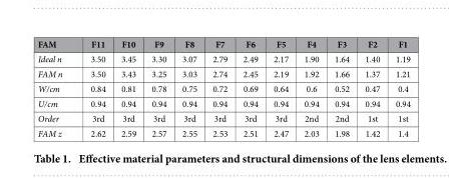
<table><thead><tr><td>FAM</td><td>F11</td><td>F10</td><td>F9</td><td>F8</td><td>F7</td><td>F6</td><td>F5</td><td>F4</td><td>F3</td><td>F2</td><td>F1</td></tr></thead><tbody><tr><td>Ideal n</td><td>3.50</td><td>3.45</td><td>3.30</td><td>3.07</td><td>2.79</td><td>2.49</td><td>2.17</td><td>1.90</td><td>1.64</td><td>1.40</td><td>1.19</td></tr><tr><td>FAM n</td><td>3.50</td><td>3.43</td><td>3.25</td><td>3.03</td><td>2.74</td><td>2.45</td><td>2.19</td><td>1.92</td><td>1.66</td><td>1.37</td><td>1.21</td></tr><tr><td>W/cm</td><td>0.84</td><td>0.81</td><td>0.78</td><td>0.75</td><td>0.72</td><td>0.69</td><td>0.64</td><td>0.6</td><td>0.52</td><td>0.47</td><td>0.4</td></tr><tr><td>U/cm</td><td>0.94</td><td>0.94</td><td>0.94</td><td>0.94</td><td>0.94</td><td>0.94</td><td>0.94</td><td>0.94</td><td>0.94</td><td>0.94</td><td>0.94</td></tr><tr><td>Order</td><td>3rd</td><td>3rd</td><td>3rd</td><td>3rd</td><td>3rd</td><td>3rd</td><td>3rd</td><td>2nd</td><td>2nd</td><td>1st</td><td>1st</td></tr><tr><td>FAM z</td><td>2.62</td><td>2.59</td><td>2.57</td><td>2.55</td><td>2.53</td><td>2.51</td><td>2.47</td><td>2.03</td><td>1.98</td><td>1.42</td><td>1.4</td></tr></tbody></table>